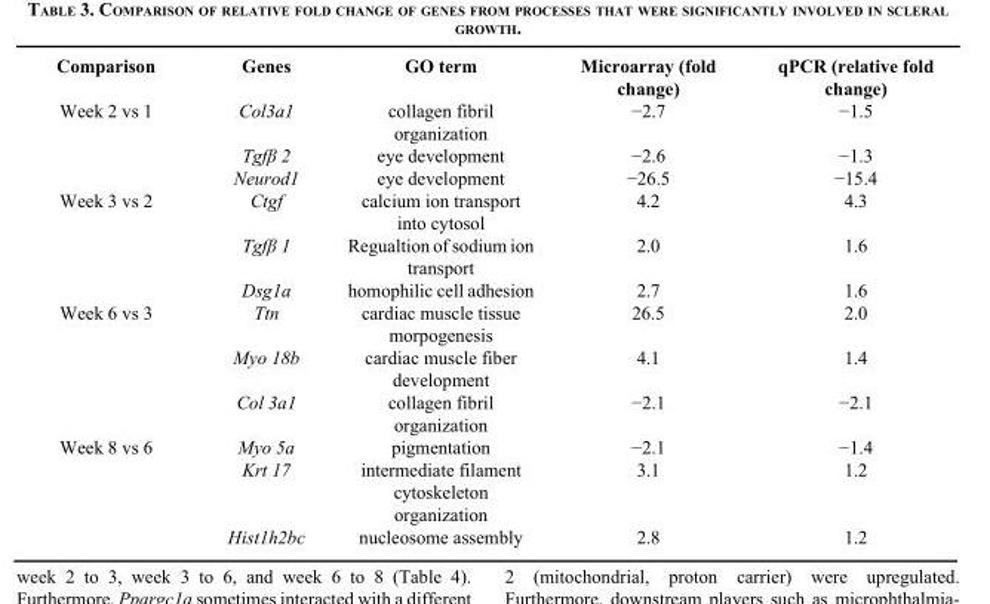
<table><thead><tr><td>Comparison</td><td>Genes</td><td>GO term</td><td>Microarray (fold change)</td><td>qPCR (relative fold change)</td></tr></thead><tbody><tr><td rowspan="3">Week 2 vs 1</td><td>Col3a1</td><td>collagen fibril organization</td><td>−2.7</td><td>−1.5</td></tr><tr><td>Tgfβ 2</td><td>eye development</td><td>−2.6</td><td>−1.3</td></tr><tr><td>Neurod1</td><td>eye development</td><td>−26.5</td><td>−15.4</td></tr><tr><td rowspan="3">Week 3 vs 2</td><td>Ctgf</td><td>calcium ion transport into cytosol</td><td>4.2</td><td>4.3</td></tr><tr><td>Tgfβ 1</td><td>Regualtion of sodium ion transport</td><td>2.0</td><td>1.6</td></tr><tr><td>Dsg1a</td><td>homophilic cell adhesion</td><td>2.7</td><td>1.6</td></tr><tr><td rowspan="3">Week 6 vs 3</td><td>Ttn</td><td>cardiac muscle tissue morpogenesis</td><td>26.5</td><td>2.0</td></tr><tr><td>Myo 18b</td><td>cardiac muscle fiber development</td><td>4.1</td><td>1.4</td></tr><tr><td>Col 3a1</td><td>collagen fibril organization</td><td>−2.1</td><td>−2.1</td></tr><tr><td rowspan="3">Week 8 vs 6</td><td>Myo 5a</td><td>pigmentation</td><td>−2.1</td><td>−1.4</td></tr><tr><td>Krt 17</td><td>intermediate filament cytoskeleton organization</td><td>3.1</td><td>1.2</td></tr><tr><td>Hist1h2bc</td><td>nucleosome assembly</td><td>2.8</td><td>1.2</td></tr></tbody></table>